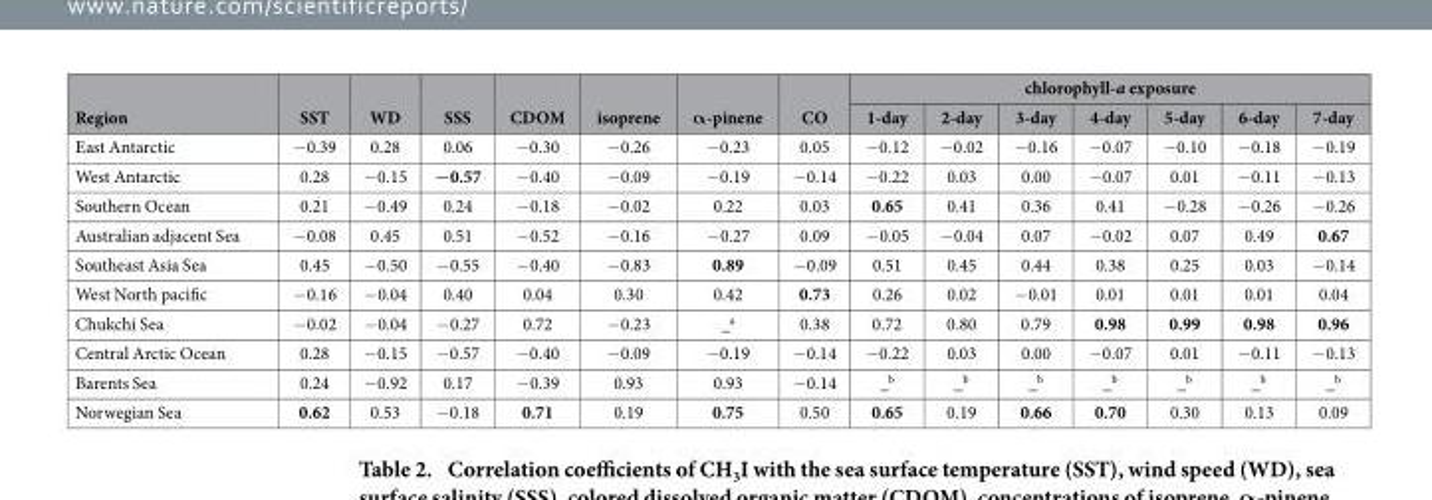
<table><thead><tr><td rowspan="2">Region</td><td rowspan="2">SST</td><td rowspan="2">WD</td><td rowspan="2">SSS</td><td rowspan="2">CDOM</td><td rowspan="2">isoprene</td><td rowspan="2">α-pinene</td><td rowspan="2">CO</td><td colspan="7">chlorophyll-a exposure</td></tr><tr><td>1-day</td><td>2-day</td><td>3-day</td><td>4-day</td><td>5-day</td><td>6-day</td><td>7-day</td></tr></thead><tbody><tr><td>East Antarctic</td><td>− 0.39</td><td>0.28</td><td>0.06</td><td>− 0.30</td><td>− 0.26</td><td>− 0.23</td><td>0.05</td><td>− 0.12</td><td>− 0.02</td><td>− 0.16</td><td>− 0.07</td><td>− 0.10</td><td>− 0.18</td><td>− 0.19</td></tr><tr><td>West Antarctic</td><td>0.28</td><td>− 0.15</td><td>−0.57</td><td>− 0.40</td><td>− 0.09</td><td>− 0.19</td><td>− 0.14</td><td>− 0.22</td><td>0.03</td><td>0.00</td><td>− 0.07</td><td>0.01</td><td>− 0.11</td><td>− 0.13</td></tr><tr><td>Southern Ocean</td><td>0.21</td><td>− 0.49</td><td>0.24</td><td>− 0.18</td><td>− 0.02</td><td>0.22</td><td>0.03</td><td>0.65</td><td>0.41</td><td>0.36</td><td>0.41</td><td>− 0.28</td><td>− 0.26</td><td>− 0.26</td></tr><tr><td>Australian adjacent Sea</td><td>− 0.08</td><td>0.45</td><td>0.51</td><td>− 0.52</td><td>− 0.16</td><td>− 0.27</td><td>0.09</td><td>− 0.05</td><td>− 0.04</td><td>0.07</td><td>− 0.02</td><td>0.07</td><td>0.49</td><td>0.67</td></tr><tr><td>Southeast Asia Sea</td><td>0.45</td><td>− 0.50</td><td>− 0.55</td><td>− 0.40</td><td>− 0.83</td><td>0.89</td><td>− 0.09</td><td>0.51</td><td>0.45</td><td>0.44</td><td>0.38</td><td>0.25</td><td>0.03</td><td>− 0.14</td></tr><tr><td>West North pacific</td><td>− 0.16</td><td>− 0.04</td><td>0.40</td><td>0.04</td><td>0.30</td><td>0.42</td><td>0.73</td><td>0.26</td><td>0.02</td><td>− 0.01</td><td>0.01</td><td>0.01</td><td>0.01</td><td>0.04</td></tr><tr><td>Chukchi Sea</td><td>− 0.02</td><td>− 0.04</td><td>− 0.27</td><td>0.72</td><td>− 0.23</td><td>_<sup>a</sup></td><td>0.38</td><td>0.72</td><td>0.80</td><td>0.79</td><td>0.98</td><td>0.99</td><td>0.98</td><td>0.96</td></tr><tr><td>Central Arctic Ocean</td><td>0.28</td><td>− 0.15</td><td>− 0.57</td><td>− 0.40</td><td>− 0.09</td><td>− 0.19</td><td>− 0.14</td><td>− 0.22</td><td>0.03</td><td>0.00</td><td>− 0.07</td><td>0.01</td><td>− 0.11</td><td>− 0.13</td></tr><tr><td>Barents Sea</td><td>0.24</td><td>− 0.92</td><td>0.17</td><td>− 0.39</td><td>0.93</td><td>0.93</td><td>− 0.14</td><td>_<sup>b</sup></td><td>_<sup>b</sup></td><td>_<sup>b</sup></td><td>_<sup>b</sup></td><td>_<sup>b</sup></td><td>_<sup>b</sup></td><td>_<sup>b</sup></td></tr><tr><td>Norwegian Sea</td><td>0.62</td><td>0.53</td><td>− 0.18</td><td>0.71</td><td>0.19</td><td>0.75</td><td>0.50</td><td>0.65</td><td>0.19</td><td>0.66</td><td>0.70</td><td>0.30</td><td>0.13</td><td>0.09</td></tr></tbody></table>